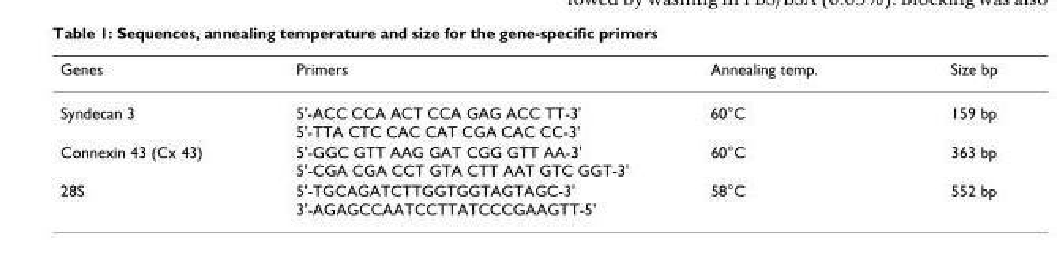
<table><thead><tr><td>Genes</td><td>Primers</td><td>Annealing temp.</td><td>Size bp</td></tr></thead><tbody><tr><td>Syndecan 3</td><td>5&#x27;-ACC CCA ACT CCA GAG ACC TT-3&#x27; 5&#x27;-TTA CTC CAC CAT CGA CAC CC-3&#x27;</td><td>60°C</td><td>159 bp</td></tr><tr><td>Connexin 43 (Cx 43)</td><td>5&#x27;-GGC GTT AAG GAT CGG GTT AA-3&#x27; 5&#x27;-CGA CGA CCT GTA CTT AAT GTC GGT-3&#x27;</td><td>60°C</td><td>363 bp</td></tr><tr><td>28S</td><td>5&#x27;-TGCAGATCTTGGTGGTAGTAGC-3&#x27; 3&#x27;-AGAGCCAATCCTTATCCCGAAGTT-5&#x27;</td><td>58°C</td><td>552 bp</td></tr></tbody></table>